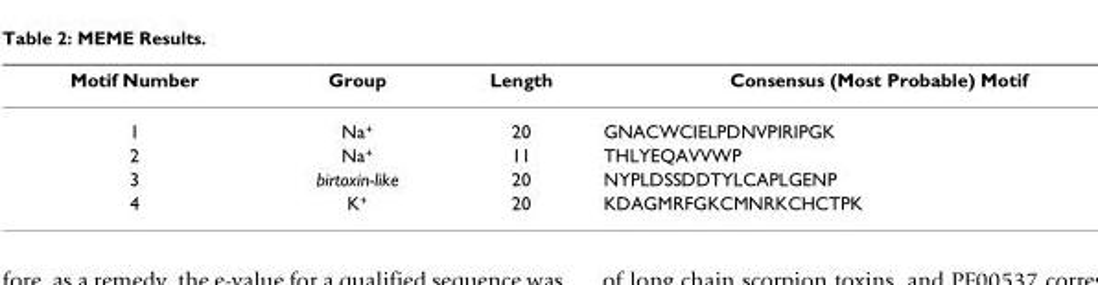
<table><thead><tr><td>Motif Number</td><td>Group</td><td>Length</td><td>Consensus (Most Probable) Motif</td></tr></thead><tbody><tr><td>1</td><td>Na<sup>+</sup></td><td>20</td><td>GNACWCIELPDNVPIRIPGK</td></tr><tr><td>2</td><td>Na<sup>+</sup></td><td>11</td><td>THLYEQAVVWP</td></tr><tr><td>3</td><td>birtoxin-like</td><td>20</td><td>NYPLDSSDDTYLCAPLGENP</td></tr><tr><td>4</td><td>K<sup>+</sup></td><td>20</td><td>KDAGMRFGKCMNRKCHCTPK</td></tr></tbody></table>